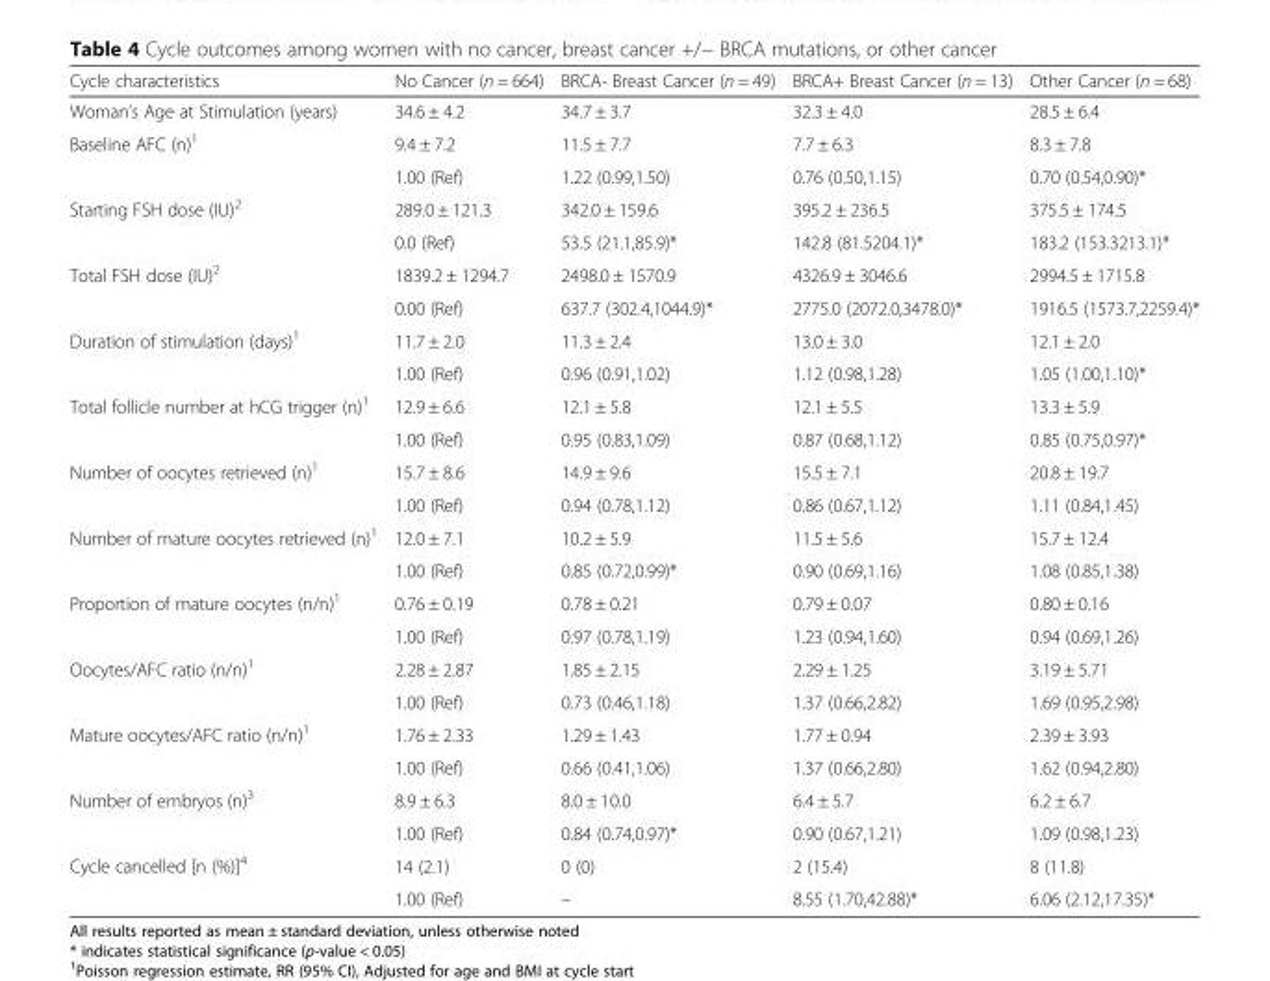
<table><thead><tr><td>Cycle characteristics</td><td>No Cancer (n = 664)</td><td>BRCA- Breast Cancer (n = 49)</td><td>BRCA+ Breast Cancer (n = 13)</td><td>Other Cancer (n = 68)</td></tr></thead><tbody><tr><td>Woman’s Age at Stimulation (years)</td><td>34.6 ± 4.2</td><td>34.7 ± 3.7</td><td>32.3 ± 4.0</td><td>28.5 ± 6.4</td></tr><tr><td rowspan="2">Baseline AFC (n)<sup>1</sup></td><td>9.4 ± 7.2</td><td>11.5 ± 7.7</td><td>7.7 ± 6.3</td><td>8.3 ± 7.8</td></tr><tr><td>1.00 (Ref)</td><td>1.22 (0.99,1.50)</td><td>0.76 (0.50,1.15)</td><td>0.70 (0.54,0.90)*</td></tr><tr><td rowspan="2">Starting FSH dose (IU)<sup>2</sup></td><td>289.0 ± 121.3</td><td>342.0 ± 159.6</td><td>395.2 ± 236.5</td><td>375.5 ± 174.5</td></tr><tr><td>0.0 (Ref)</td><td>53.5 (21.1,85.9)*</td><td>142.8 (81.5204.1)*</td><td>183.2 (153.3213.1)*</td></tr><tr><td rowspan="2">Total FSH dose (IU)<sup>2</sup></td><td>1839.2 ± 1294.7</td><td>2498.0 ± 1570.9</td><td>4326.9 ± 3046.6</td><td>2994.5 ± 1715.8</td></tr><tr><td>0.00 (Ref)</td><td>637.7 (302.4,1044.9)*</td><td>2775.0 (2072.0,3478.0)*</td><td>1916.5 (1573.7,2259.4)*</td></tr><tr><td rowspan="2">Duration of stimulation (days)<sup>1</sup></td><td>11.7 ± 2.0</td><td>11.3 ± 2.4</td><td>13.0 ± 3.0</td><td>12.1 ± 2.0</td></tr><tr><td>1.00 (Ref)</td><td>0.96 (0.91,1.02)</td><td>1.12 (0.98,1.28)</td><td>1.05 (1.00,1.10)*</td></tr><tr><td rowspan="2">Total follicle number at hCG trigger (n)<sup>1</sup></td><td>12.9 ± 6.6</td><td>12.1 ± 5.8</td><td>12.1 ± 5.5</td><td>13.3 ± 5.9</td></tr><tr><td>1.00 (Ref)</td><td>0.95 (0.83,1.09)</td><td>0.87 (0.68,1.12)</td><td>0.85 (0.75,0.97)*</td></tr><tr><td rowspan="2">Number of oocytes retrieved (n)<sup>1</sup></td><td>15.7 ± 8.6</td><td>14.9 ± 9.6</td><td>15.5 ± 7.1</td><td>20.8 ± 19.7</td></tr><tr><td>1.00 (Ref)</td><td>0.94 (0.78,1.12)</td><td>0.86 (0.67,1.12)</td><td>1.11 (0.84,1.45)</td></tr><tr><td rowspan="2">Number of mature oocytes retrieved (n)<sup>1</sup></td><td>12.0 ± 7.1</td><td>10.2 ± 5.9</td><td>11.5 ± 5.6</td><td>15.7 ± 12.4</td></tr><tr><td>1.00 (Ref)</td><td>0.85 (0.72,0.99)*</td><td>0.90 (0.69,1.16)</td><td>1.08 (0.85,1.38)</td></tr><tr><td rowspan="2">Proportion of mature oocytes (n/n)<sup>1</sup></td><td>0.76 ± 0.19</td><td>0.78 ± 0.21</td><td>0.79 ± 0.07</td><td>0.80 ± 0.16</td></tr><tr><td>1.00 (Ref)</td><td>0.97 (0.78,1.19)</td><td>1.23 (0.94,1.60)</td><td>0.94 (0.69,1.26)</td></tr><tr><td rowspan="2">Oocytes/AFC ratio (n/n)<sup>1</sup></td><td>2.28 ± 2.87</td><td>1.85 ± 2.15</td><td>2.29 ± 1.25</td><td>3.19 ± 5.71</td></tr><tr><td>1.00 (Ref)</td><td>0.73 (0.46,1.18)</td><td>1.37 (0.66,2.82)</td><td>1.69 (0.95,2.98)</td></tr><tr><td rowspan="2">Mature oocytes/AFC ratio (n/n)<sup>1</sup></td><td>1.76 ± 2.33</td><td>1.29 ± 1.43</td><td>1.77 ± 0.94</td><td>2.39 ± 3.93</td></tr><tr><td>1.00 (Ref)</td><td>0.66 (0.41,1.06)</td><td>1.37 (0.66,2.80)</td><td>1.62 (0.94,2.80)</td></tr><tr><td rowspan="2">Number of embryos (n)<sup>3</sup></td><td>8.9 ± 6.3</td><td>8.0 ± 10.0</td><td>6.4 ± 5.7</td><td>6.2 ± 6.7</td></tr><tr><td>1.00 (Ref)</td><td>0.84 (0.74,0.97)*</td><td>0.90 (0.67,1.21)</td><td>1.09 (0.98,1.23)</td></tr><tr><td rowspan="2">Cycle cancelled [n (%)]<sup>4</sup></td><td>14 (2.1)</td><td>0 (0)</td><td>2 (15.4)</td><td>8 (11.8)</td></tr><tr><td>1.00 (Ref)</td><td>–</td><td>8.55 (1.70,42.88)*</td><td>6.06 (2.12,17.35)*</td></tr></tbody></table>